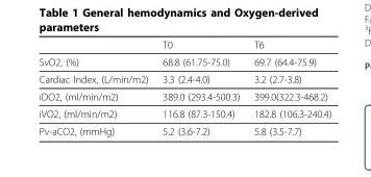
<table><thead><tr><td></td><td>T0</td><td>T6</td></tr></thead><tbody><tr><td>SvO2, (%)</td><td>68.8 (61.75-75.0)</td><td>69.7 (64.4-75.9)</td></tr><tr><td>Cardiac Index, (L/min/m2)</td><td>3.3 (2.4-4.0)</td><td>3.2 (2.7-3.8)</td></tr><tr><td>iDO2, (ml/min/m2)</td><td>389.0 (293.4-500.3)</td><td>399.0(322.3-468.2)</td></tr><tr><td>iVO2, (ml/min/m2)</td><td>116.8 (87.3-150.4)</td><td>182.8 (106.3-240.4)</td></tr><tr><td>Pv-aCO2, (mmHg)</td><td>5.2 (3.6-7.2)</td><td>5.8 (3.5-7.7)</td></tr></tbody></table>